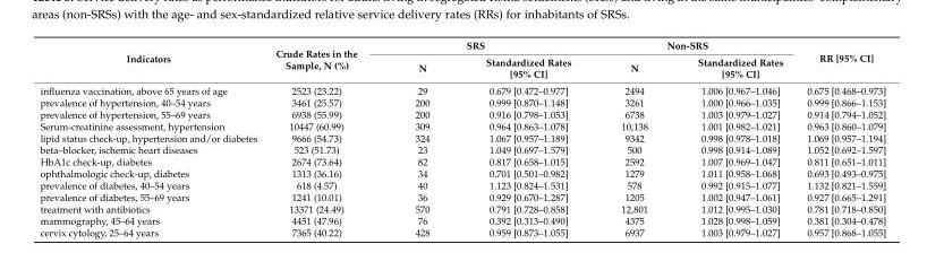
<table><thead><tr><td rowspan="2">Indicators</td><td rowspan="2">Crude Rates in the Sample, N (%)</td><td colspan="2">SRS</td><td colspan="2">Non-SRS</td><td rowspan="2">RR [95% CI]</td></tr><tr><td>N</td><td>Standardized Rates [95% CI]</td><td>N</td><td>Standardized Rates [95% CI]</td></tr></thead><tbody><tr><td>influenza vaccination, above 65 years of age</td><td>2523 (23.22)</td><td>29</td><td>0.679 [0.472–0.977]</td><td>2494</td><td>1.006 [0.967–1.046]</td><td>0.675 [0.468–0.973]</td></tr><tr><td>prevalence of hypertension, 40–54 years</td><td>3461 (25.57)</td><td>200</td><td>0.999 [0.870–1.148]</td><td>3261</td><td>1.000 [0.966–1.035]</td><td>0.999 [0.866–1.153]</td></tr><tr><td>prevalence of hypertension, 55–69 years</td><td>6938 (55.99)</td><td>200</td><td>0.916 [0.798–1.053]</td><td>6738</td><td>1.003 [0.979–1.027]</td><td>0.914 [0.794–1.052]</td></tr><tr><td>Serum-creatinine assessment, hypertension</td><td>10447 (60.99)</td><td>309</td><td>0.964 [0.863–1.078]</td><td>10,138</td><td>1.001 [0.982–1.021]</td><td>0.963 [0.860–1.079]</td></tr><tr><td>lipid status check-up, hypertension and/or diabetes</td><td>9666 (54.73)</td><td>324</td><td>1.067 [0.957–1.189]</td><td>9342</td><td>0.998 [0.978–1.018]</td><td>1.069 [0.957–1.194]</td></tr><tr><td>beta–blocker, ischemic heart diseases</td><td>523 (51.73)</td><td>23</td><td>1.049 [0.697–1.579]</td><td>500</td><td>0.998 [0.914–1.089]</td><td>1.052 [0.692–1.597]</td></tr><tr><td>HbA1c check-up, diabetes</td><td>2674 (73.64)</td><td>82</td><td>0.817 [0.658–1.015]</td><td>2592</td><td>1.007 [0.969–1.047]</td><td>0.811 [0.651–1.011]</td></tr><tr><td>ophthalmologic check-up, diabetes</td><td>1313 (36.16)</td><td>34</td><td>0.701 [0.501–0.982]</td><td>1279</td><td>1.011 [0.958–1.068]</td><td>0.693 [0.493–0.975]</td></tr><tr><td>prevalence of diabetes, 40–54 years</td><td>618 (4.57)</td><td>40</td><td>1.123 [0.824–1.531]</td><td>578</td><td>0.992 [0.915–1.077]</td><td>1.132 [0.821–1.559]</td></tr><tr><td>prevalence of diabetes, 55–69 years</td><td>1241 (10.01)</td><td>36</td><td>0.929 [0.670–1.287]</td><td>1205</td><td>1.002 [0.947–1.061]</td><td>0.927 [0.665–1.291]</td></tr><tr><td>treatment with antibiotics</td><td>13371 (24.49)</td><td>570</td><td>0.791 [0.728–0.858]</td><td>12,801</td><td>1.012 [0.995–1.030]</td><td>0.781 [0.718–0.850]</td></tr><tr><td>mammography, 45–64 years</td><td>4451 (47.96)</td><td>76</td><td>0.392 [0.313–0.490]</td><td>4375</td><td>1.028 [0.998–1.059]</td><td>0.381 [0.304–0.478]</td></tr><tr><td>cervix cytology, 25–64 years</td><td>7365 (40.22)</td><td>428</td><td>0.959 [0.873–1.055]</td><td>6937</td><td>1.003 [0.979–1.027]</td><td>0.957 [0.868–1.055]</td></tr></tbody></table>